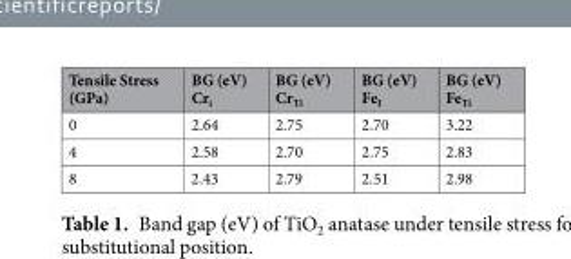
<table><thead><tr><td>Tensile Stress (GPa)</td><td>BG (eV) Cr<sub>i</sub></td><td>BG (eV) Cr<sub>Ti</sub></td><td>BG (eV) Fe<sub>I</sub></td><td>BG (eV) Fe<sub>Ti</sub></td></tr></thead><tbody><tr><td>0</td><td>2.64</td><td>2.75</td><td>2.70</td><td>3.22</td></tr><tr><td>4</td><td>2.58</td><td>2.70</td><td>2.75</td><td>2.83</td></tr><tr><td>8</td><td>2.43</td><td>2.79</td><td>2.51</td><td>2.98</td></tr></tbody></table>